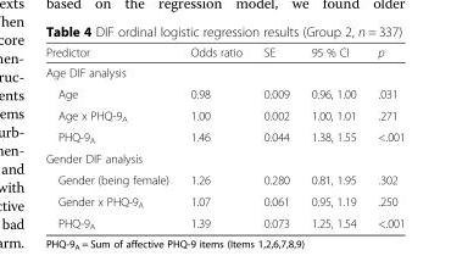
<table><thead><tr><td>Predictor</td><td>Odds ratio</td><td>SE</td><td>95 % CI</td><td>p</td></tr></thead><tbody><tr><td colspan="5">Age DIF analysis</td></tr><tr><td>Age</td><td>0.98</td><td>0.009</td><td>0.96, 1.00</td><td>.031</td></tr><tr><td>Age x PHQ-9<sub>A</sub></td><td>1.00</td><td>0.002</td><td>1.00, 1.01</td><td>.271</td></tr><tr><td>PHQ-9<sub>A</sub></td><td>1.46</td><td>0.044</td><td>1.38, 1.55</td><td>&lt;.001</td></tr><tr><td colspan="5">Gender DIF analysis</td></tr><tr><td>Gender (being female)</td><td>1.26</td><td>0.280</td><td>0.81, 1.95</td><td>.302</td></tr><tr><td>Gender x PHQ-9<sub>A</sub></td><td>1.07</td><td>0.061</td><td>0.95, 1.19</td><td>.250</td></tr><tr><td>PHQ-9<sub>A</sub></td><td>1.39</td><td>0.073</td><td>1.25, 1.54</td><td>&lt;.001</td></tr></tbody></table>